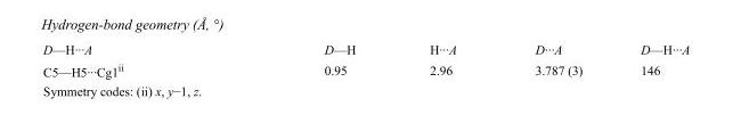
<table><tbody><tr><td>D—H···A</td><td>D—H</td><td>H···A</td><td>D···A</td><td>D—H···A</td></tr><tr><td>C5—H5···Cg1<sup>ii</sup></td><td>0.95</td><td>2.96</td><td>3.787 (3)</td><td>146</td></tr></tbody></table>